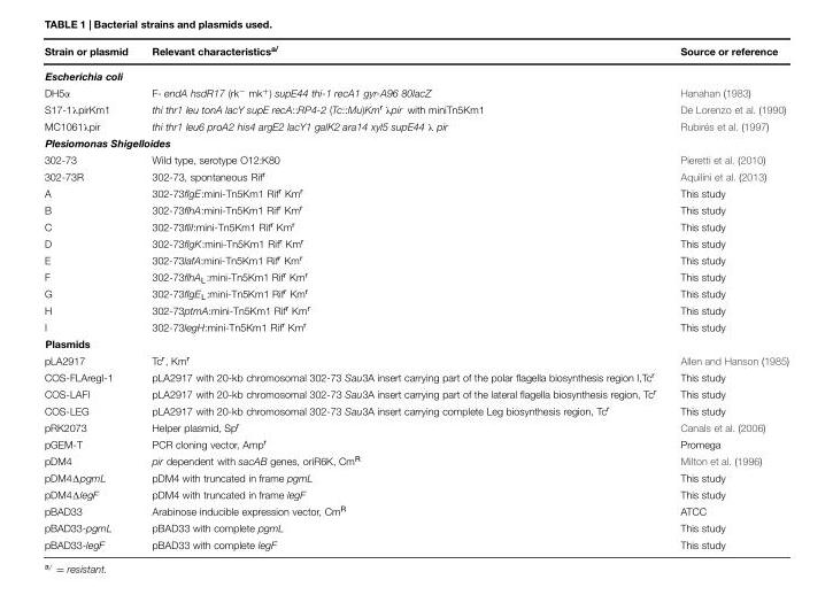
<table><thead><tr><td>Strain or plasmid</td><td>Relevant characteristics<sup>a/</sup></td><td>Source or reference</td></tr></thead><tbody><tr><td colspan="3">Escherichia coli</td></tr><tr><td>DH5α</td><td>F- endA hsdR17 (rk<sup>−</sup> mk<sup>+</sup>) supE44 thi-1 recA1 gyr-A96 80lacZ</td><td>Hanahan (1983)</td></tr><tr><td>S17-1λpirKm1</td><td>thi thr1 leu tonA lacY supE recA::RP4-2 (Tc::Mu)Km<sup>r</sup> λpir with miniTn5Km1</td><td>De Lorenzo et al. (1990)</td></tr><tr><td>MC1061λpir</td><td>thi thr1 leu6 proA2 his4 argE2 lacY1 galK2 ara14 xyl5 supE44 λ pir</td><td>Rubirés et al. (1997)</td></tr><tr><td colspan="3">Plesiomonas Shigelloides</td></tr><tr><td>302-73</td><td>Wild type, serotype O12:K80</td><td>Pieretti et al. (2010)</td></tr><tr><td>302-73R</td><td>302-73, spontaneous Rif<sup>r</sup></td><td>Aquilini et al. (2013)</td></tr><tr><td>A</td><td>302-73flgE:mini-Tn5Km1 Rif<sup>r</sup> Km<sup>r</sup></td><td>This study</td></tr><tr><td>B</td><td>302-73flhA:mini-Tn5Km1 Rif<sup>r</sup> Km<sup>r</sup></td><td>This study</td></tr><tr><td>C</td><td>302-73fliI:mini-Tn5Km1 Rif<sup>r</sup> Km<sup>r</sup></td><td>This study</td></tr><tr><td>D</td><td>302-73flgK:mini-Tn5Km1 Rif<sup>r</sup> Km<sup>r</sup></td><td>This study</td></tr><tr><td>E</td><td>302-73lafA:mini-Tn5Km1 Rif<sup>r</sup> Km<sup>r</sup></td><td>This study</td></tr><tr><td>F</td><td>302-73flhA<sub>L</sub>:mini-Tn5Km1 Rif<sup>r</sup> Km<sup>r</sup></td><td>This study</td></tr><tr><td>G</td><td>302-73flgE<sub>L</sub>:mini-Tn5Km1 Rif<sup>r</sup> Km<sup>r</sup></td><td>This study</td></tr><tr><td>H</td><td>302-73ptmA:mini-Tn5Km1 Rif<sup>r</sup> Km<sup>r</sup></td><td>This study</td></tr><tr><td>I</td><td>302-73legH:mini-Tn5Km1 Rif<sup>r</sup> Km<sup>r</sup></td><td>This study</td></tr><tr><td colspan="3">Plasmids</td></tr><tr><td>pLA2917</td><td>Tc<sup>r</sup>, Km<sup>r</sup></td><td>Allen and Hanson (1985)</td></tr><tr><td>COS-FLAregI-1</td><td>pLA2917 with 20-kb chromosomal 302-73 Sau3A insert carrying part of the polar flagella biosynthesis region I,Tc<sup>r</sup></td><td>This study</td></tr><tr><td>COS-LAFI</td><td>pLA2917 with 20-kb chromosomal 302-73 Sau3A insert carrying part of the lateral flagella biosynthesis region, Tc<sup>r</sup></td><td>This study</td></tr><tr><td>COS-LEG</td><td>pLA2917 with 20-kb chromosomal 302-73 Sau3A insert carrying complete Leg biosynthesis region, Tc<sup>r</sup></td><td>This study</td></tr><tr><td>pRK2073</td><td>Helper plasmid, Sp<sup>r</sup></td><td>Canals et al. (2006)</td></tr><tr><td>pGEM-T</td><td>PCR cloning vector, Amp<sup>r</sup></td><td>Promega</td></tr><tr><td>pDM4</td><td>pir dependent with sacAB genes, oriR6K, Cm<sup>R</sup></td><td>Milton et al. (1996)</td></tr><tr><td>pDM4ΔpgmL</td><td>pDM4 with truncated in frame pgmL</td><td>This study</td></tr><tr><td>pDM4ΔlegF</td><td>pDM4 with truncated in frame legF</td><td>This study</td></tr><tr><td>pBAD33</td><td>Arabinose inducible expression vector, Cm<sup>R</sup></td><td>ATCC</td></tr><tr><td>pBAD33-pgmL</td><td>pBAD33 with complete pgmL</td><td>This study</td></tr><tr><td>pBAD33-legF</td><td>pBAD33 with complete legF</td><td>This study</td></tr></tbody></table>